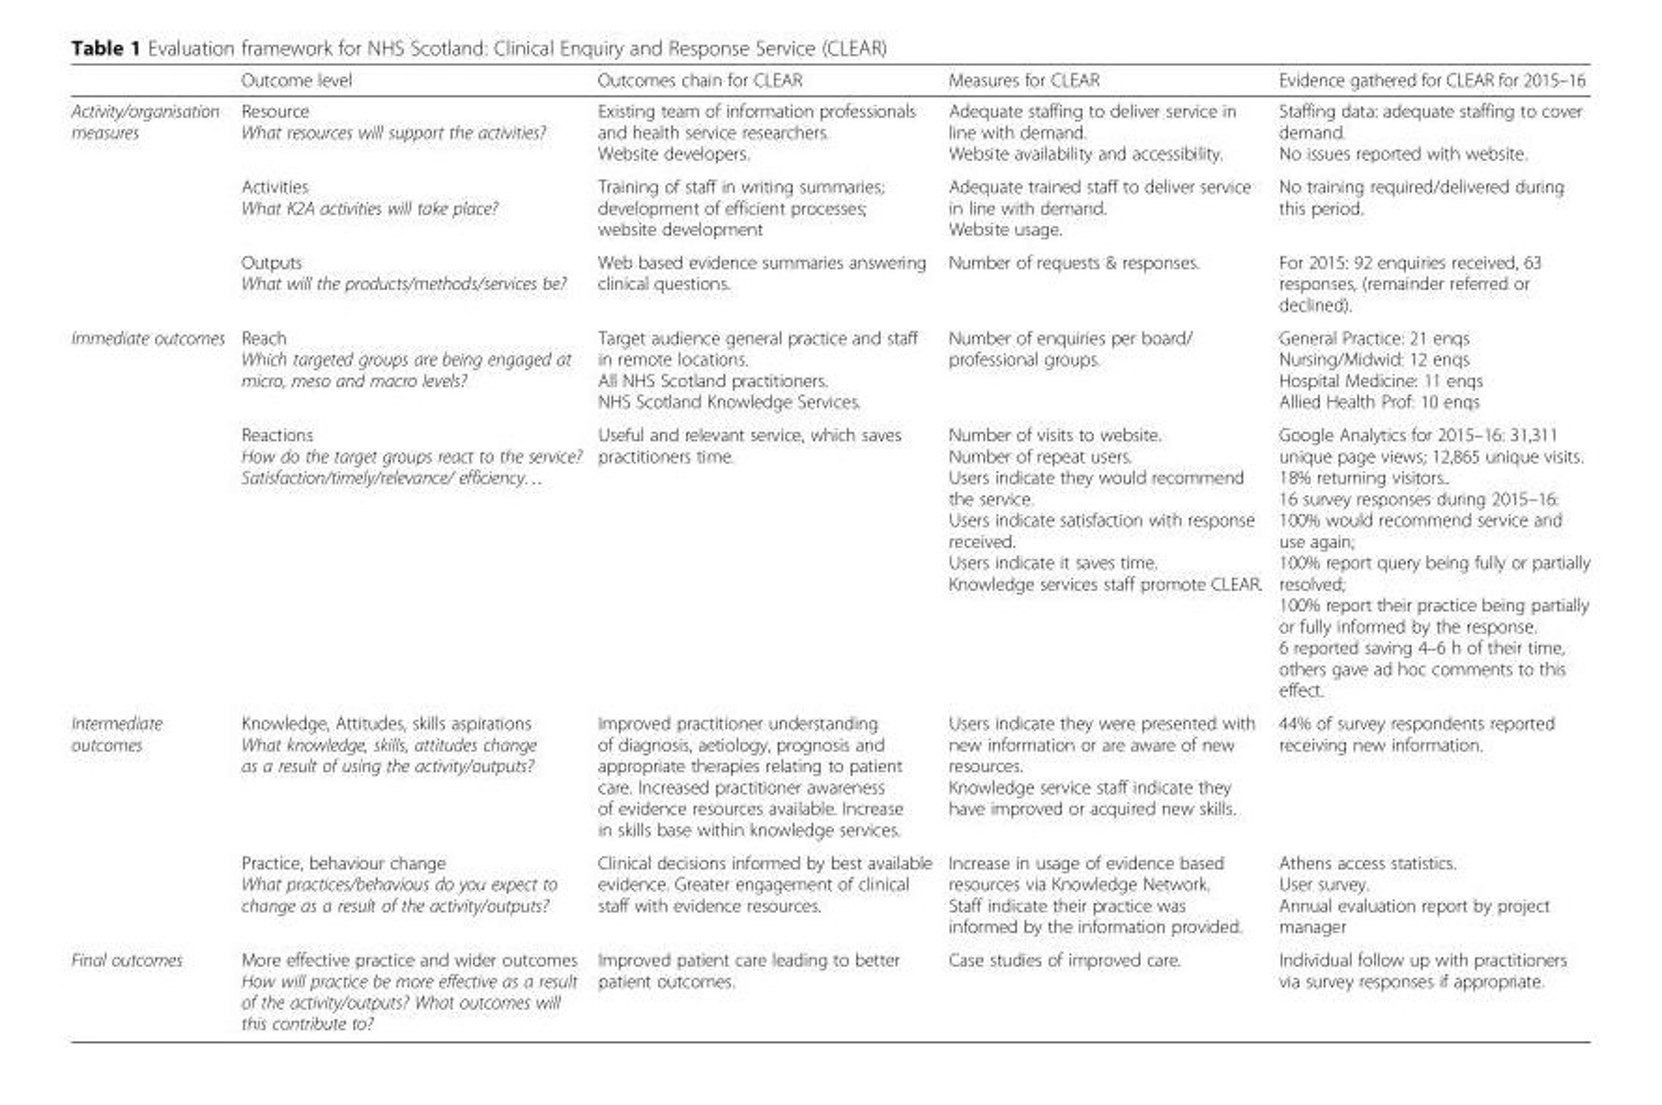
<table><thead><tr><td></td><td>Outcome level</td><td>Outcomes chain for CLEAR</td><td>Measures for CLEAR</td><td>Evidence gathered for CLEAR for 2015–16</td></tr></thead><tbody><tr><td rowspan="3">Activity/organisation measures</td><td>Resource What resources will support the activities?</td><td>Existing team of information professionals and health service researchers. Website developers.</td><td>Adequate staffing to deliver service in line with demand. Website availability and accessibility.</td><td>Staffing data: adequate staffing to cover demand. No issues reported with website.</td></tr><tr><td>Activities What K2A activities will take place?</td><td>Training of staff in writing summaries; development of efficient processes; website development</td><td>Adequate trained staff to deliver service in line with demand. Website usage.</td><td>No training required/delivered during this period.</td></tr><tr><td>Outputs What will the products/methods/services be?</td><td>Web based evidence summaries answering clinical questions.</td><td>Number of requests &amp; responses.</td><td>For 2015: 92 enquiries received, 63 responses, (remainder referred or declined).</td></tr><tr><td rowspan="2">Immediate outcomes</td><td>Reach Which targeted groups are being engaged at micro, meso and macro levels?</td><td>Target audience general practice and staff in remote locations. All NHS Scotland practitioners. NHS Scotland Knowledge Services.</td><td>Number of enquiries per board/ professional groups.</td><td>General Practice: 21 enqs Nursing/Midwid: 12 enqs Hospital Medicine: 11 enqs Allied Health Prof: 10 enqs</td></tr><tr><td>Reactions How do the target groups react to the service? Satisfaction/timely/relevance/ efficiency…</td><td>Useful and relevant service, which saves practitioners time.</td><td>Number of visits to website. Number of repeat users. Users indicate they would recommend the service. Users indicate satisfaction with response received. Users indicate it saves time. Knowledge services staff promote CLEAR.</td><td>Google Analytics for 2015–16: 31,311 unique page views; 12,865 unique visits. 18% returning visitors.. 16 survey responses during 2015–16: 100% would recommend service and use again; 100% report query being fully or partially resolved; 100% report their practice being partially or fully informed by the response. 6 reported saving 4–6 h of their time, others gave ad hoc comments to this effect.</td></tr><tr><td rowspan="2">Intermediate outcomes</td><td>Knowledge, Attitudes, skills aspirations What knowledge, skills, attitudes change as a result of using the activity/outputs?</td><td>Improved practitioner understanding of diagnosis, aetiology, prognosis and appropriate therapies relating to patient care. Increased practitioner awareness of evidence resources available. Increase in skills base within knowledge services.</td><td>Users indicate they were presented with new information or are aware of new resources. Knowledge service staff indicate they have improved or acquired new skills.</td><td>44% of survey respondents reported receiving new information.</td></tr><tr><td>Practice, behaviour change What practices/behavious do you expect to change as a result of the activity/outputs?</td><td>Clinical decisions informed by best available evidence. Greater engagement of clinical staff with evidence resources.</td><td>Increase in usage of evidence based resources via Knowledge Network. Staff indicate their practice was informed by the information provided.</td><td>Athens access statistics. User survey. Annual evaluation report by project manager</td></tr><tr><td>Final outcomes</td><td>More effective practice and wider outcomes How will practice be more effective as a result of the activity/outputs? What outcomes will this contribute to?</td><td>Improved patient care leading to better patient outcomes.</td><td>Case studies of improved care.</td><td>Individual follow up with practitioners via survey responses if appropriate.</td></tr></tbody></table>